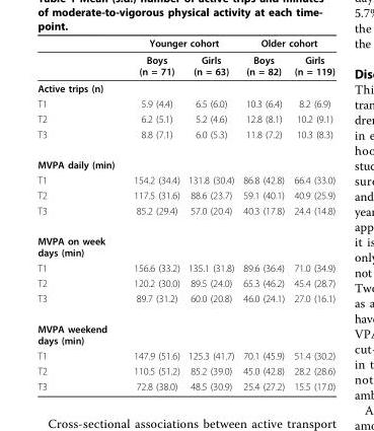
<table><thead><tr><td rowspan="2"></td><td colspan="2">Younger cohort</td><td colspan="2">Older cohort</td></tr><tr><td>Boys (n = 71)</td><td>Girls (n = 63)</td><td>Boys (n = 82)</td><td>Girls (n = 119)</td></tr></thead><tbody><tr><td colspan="5">Active trips (n)</td></tr><tr><td>T1</td><td>5.9 (4.4)</td><td>6.5 (6.0)</td><td>10.3 (6.4)</td><td>8.2 (6.9)</td></tr><tr><td>T2</td><td>6.2 (5.1)</td><td>5.2 (4.6)</td><td>12.8 (8.1)</td><td>10.2 (9.1)</td></tr><tr><td>T3</td><td>8.8 (7.1)</td><td>6.0 (5.3)</td><td>11.8 (7.2)</td><td>10.3 (8.3)</td></tr><tr><td colspan="5">MVPA daily (min)</td></tr><tr><td>T1</td><td>154.2 (34.4)</td><td>131.8 (30.4)</td><td>86.8 (42.8)</td><td>66.4 (33.0)</td></tr><tr><td>T2</td><td>117.5 (31.6)</td><td>88.6 (23.7)</td><td>59.1 (40.1)</td><td>40.9 (25.9)</td></tr><tr><td>T3</td><td>85.2 (29.4)</td><td>57.0 (20.4)</td><td>40.3 (17.8)</td><td>24.4 (14.8)</td></tr><tr><td colspan="5">MVPA on week days (min)</td></tr><tr><td>T1</td><td>156.6 (33.2)</td><td>135.1 (31.8)</td><td>89.6 (36.4)</td><td>71.0 (34.9)</td></tr><tr><td>T2</td><td>120.2 (30.0)</td><td>89.5 (24.0)</td><td>65.3 (46.2)</td><td>45.4 (28.7)</td></tr><tr><td>T3</td><td>89.7 (31.2)</td><td>60.0 (20.8)</td><td>46.0 (24.1)</td><td>27.0 (16.1)</td></tr><tr><td colspan="5">MVPA weekend days (min)</td></tr><tr><td>T1</td><td>147.9 (51.6)</td><td>125.3 (41.7)</td><td>70.1 (45.9)</td><td>51.4 (30.2)</td></tr><tr><td>T2</td><td>110.5 (51.2)</td><td>85.2 (39.0)</td><td>45.0 (42.8)</td><td>28.2 (28.6)</td></tr><tr><td>T3</td><td>72.8 (38.0)</td><td>48.5 (30.9)</td><td>25.4 (27.2)</td><td>15.5 (17.0)</td></tr></tbody></table>